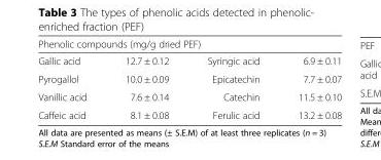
<table><thead><tr><td colspan="4">Phenolic compounds (mg/g dried PEF)</td></tr><tr><td>Gallic acid</td><td>12.7 ± 0.12</td><td>Syringic acid</td><td>6.9 ± 0.11</td></tr></thead><tbody><tr><td>Pyrogallol</td><td>10.0 ± 0.09</td><td>Epicatechin</td><td>7.7 ± 0.07</td></tr><tr><td>Vanillic acid</td><td>7.6 ± 0.14</td><td>Catechin</td><td>11.5 ± 0.10</td></tr><tr><td>Caffeic acid</td><td>8.1 ± 0.08</td><td>Ferulic acid</td><td>13.2 ± 0.08</td></tr></tbody></table>